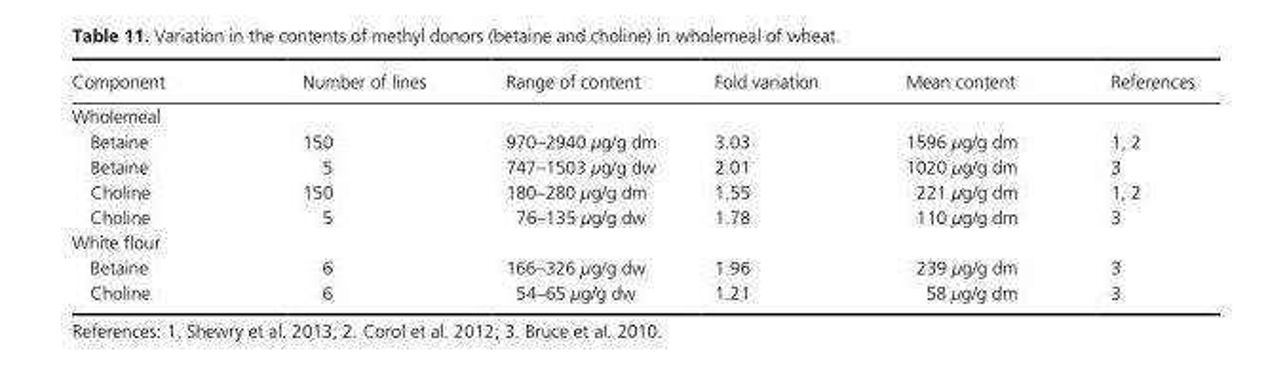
<table><thead><tr><td>Component</td><td>Number of lines</td><td>Range of content</td><td>Fold variation</td><td>Mean content</td><td>References</td></tr></thead><tbody><tr><td colspan="6">Wholemeal</td></tr><tr><td>Betaine</td><td>150</td><td>970–2940 μg/g dm</td><td>3.03</td><td>1596 μg/g dm</td><td>1, 2</td></tr><tr><td>Betaine</td><td>5</td><td>747–1503 μg/g dw</td><td>2.01</td><td>1020 μg/g dm</td><td>3</td></tr><tr><td>Choline</td><td>150</td><td>180–280 μg/g dm</td><td>1.55</td><td>221 μg/g dm</td><td>1, 2</td></tr><tr><td>Choline</td><td>5</td><td>76–135 μg/g dw</td><td>1.78</td><td>110 μg/g dm</td><td>3</td></tr><tr><td colspan="6">White flour</td></tr><tr><td>Betaine</td><td>6</td><td>166–326 μg/g dw</td><td>1.96</td><td>239 μg/g dm</td><td>3</td></tr><tr><td>Choline</td><td>6</td><td>54–65 μg/g dw</td><td>1.21</td><td>58 μg/g dm</td><td>3</td></tr></tbody></table>